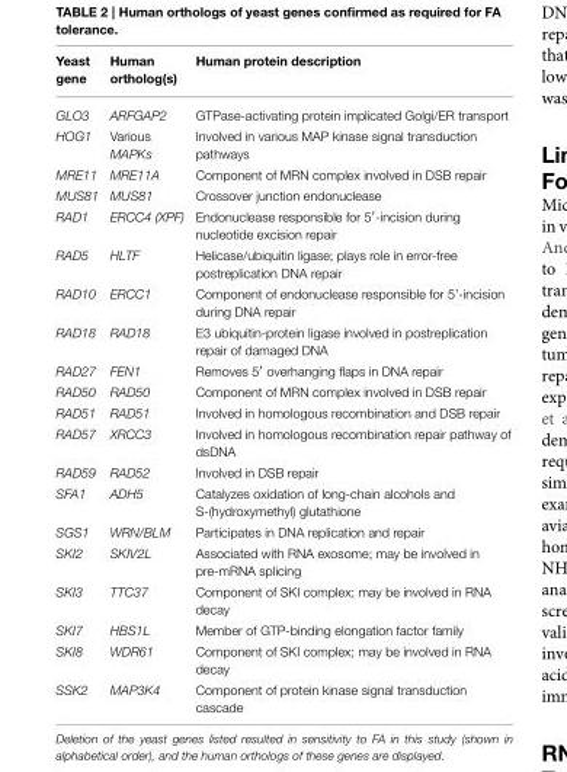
<table><thead><tr><td>Yeast gene</td><td>Human ortholog(s)</td><td>Human protein description</td></tr></thead><tbody><tr><td>GLO3</td><td>ARFGAP2</td><td>GTPase-activating protein implicated Golgi/ER transport</td></tr><tr><td>HOG1</td><td>Various MAPKs</td><td>Involved in various MAP kinase signal transduction pathways</td></tr><tr><td>MRE11</td><td>MRE11A</td><td>Component of MRN complex involved in DSB repair</td></tr><tr><td>MUS81</td><td>MUS81</td><td>Crossover junction endonuclease</td></tr><tr><td>RAD1</td><td>ERCC4 (XPF)</td><td>Endonuclease responsible for 5′-incision during nucleotide excision repair</td></tr><tr><td>RAD5</td><td>HLTF</td><td>Helicase/ubiquitin ligase; plays role in error-free postreplication DNA repair</td></tr><tr><td>RAD10</td><td>ERCC1</td><td>Component of endonuclease responsible for 5’-incision during DNA repair</td></tr><tr><td>RAD18</td><td>RAD18</td><td>E3 ubiquitin-protein ligase involved in postreplication repair of damaged DNA</td></tr><tr><td>RAD27</td><td>FEN1</td><td>Removes 5′ overhanging flaps in DNA repair</td></tr><tr><td>RAD50</td><td>RAD50</td><td>Component of MRN complex involved in DSB repair</td></tr><tr><td>RAD51</td><td>RAD51</td><td>Involved in homologous recombination and DSB repair</td></tr><tr><td>RAD57</td><td>XRCC3</td><td>Involved in homologous recombination repair pathway of dsDNA</td></tr><tr><td>RAD59</td><td>RAD52</td><td>Involved in DSB repair</td></tr><tr><td>SFA1</td><td>ADH5</td><td>Catalyzes oxidation of long-chain alcohols and S-(hydroxymethyl) glutathione</td></tr><tr><td>SGS1</td><td>WRN/BLM</td><td>Participates in DNA replication and repair</td></tr><tr><td>SKI2</td><td>SKIV2L</td><td>Associated with RNA exosome; may be involved in pre-mRNA splicing</td></tr><tr><td>SKI3</td><td>TTC37</td><td>Component of SKI complex; may be involved in RNA decay</td></tr><tr><td>SKI7</td><td>HBS1L</td><td>Member of GTP-binding elongation factor family</td></tr><tr><td>SKI8</td><td>WDR61</td><td>Component of SKI complex; may be involved in RNA decay</td></tr><tr><td>SSK2</td><td>MAP3K4</td><td>Component of protein kinase signal transduction cascade</td></tr></tbody></table>